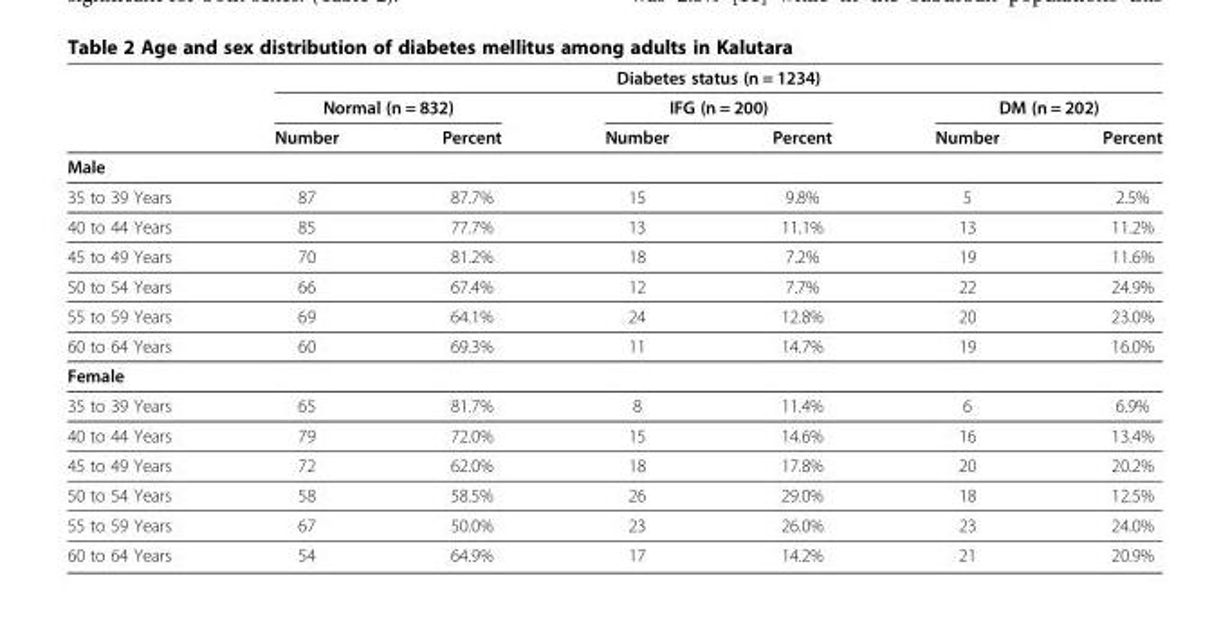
<table><thead><tr><td rowspan="3"></td><td colspan="6">Diabetes status (n = 1234)</td></tr><tr><td colspan="2">Normal (n = 832)</td><td colspan="2">IFG (n = 200)</td><td colspan="2">DM (n = 202)</td></tr><tr><td>Number</td><td>Percent</td><td>Number</td><td>Percent</td><td>Number</td><td>Percent</td></tr></thead><tbody><tr><td colspan="7">Male</td></tr><tr><td>35 to 39 Years</td><td>87</td><td>87.7%</td><td>15</td><td>9.8%</td><td>5</td><td>2.5%</td></tr><tr><td>40 to 44 Years</td><td>85</td><td>77.7%</td><td>13</td><td>11.1%</td><td>13</td><td>11.2%</td></tr><tr><td>45 to 49 Years</td><td>70</td><td>81.2%</td><td>18</td><td>7.2%</td><td>19</td><td>11.6%</td></tr><tr><td>50 to 54 Years</td><td>66</td><td>67.4%</td><td>12</td><td>7.7%</td><td>22</td><td>24.9%</td></tr><tr><td>55 to 59 Years</td><td>69</td><td>64.1%</td><td>24</td><td>12.8%</td><td>20</td><td>23.0%</td></tr><tr><td>60 to 64 Years</td><td>60</td><td>69.3%</td><td>11</td><td>14.7%</td><td>19</td><td>16.0%</td></tr><tr><td colspan="7">Female</td></tr><tr><td>35 to 39 Years</td><td>65</td><td>81.7%</td><td>8</td><td>11.4%</td><td>6</td><td>6.9%</td></tr><tr><td>40 to 44 Years</td><td>79</td><td>72.0%</td><td>15</td><td>14.6%</td><td>16</td><td>13.4%</td></tr><tr><td>45 to 49 Years</td><td>72</td><td>62.0%</td><td>18</td><td>17.8%</td><td>20</td><td>20.2%</td></tr><tr><td>50 to 54 Years</td><td>58</td><td>58.5%</td><td>26</td><td>29.0%</td><td>18</td><td>12.5%</td></tr><tr><td>55 to 59 Years</td><td>67</td><td>50.0%</td><td>23</td><td>26.0%</td><td>23</td><td>24.0%</td></tr><tr><td>60 to 64 Years</td><td>54</td><td>64.9%</td><td>17</td><td>14.2%</td><td>21</td><td>20.9%</td></tr></tbody></table>